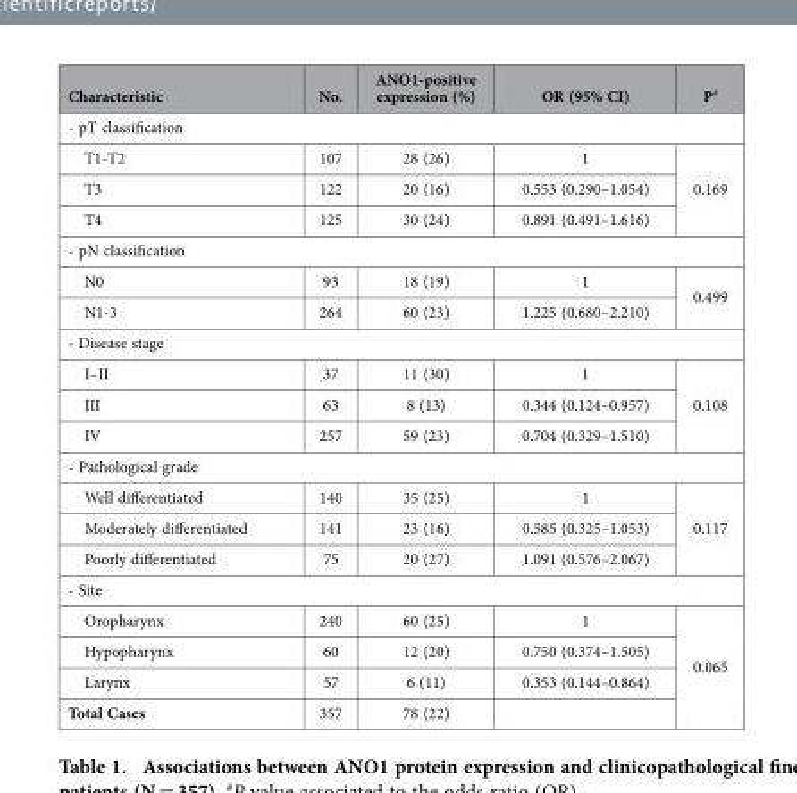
<table><thead><tr><td>Characteristic</td><td>No.</td><td>ANO1-positive expression (%)</td><td>OR (95% CI)</td><td>P<sup>#</sup></td></tr></thead><tbody><tr><td colspan="5">- pT classification</td></tr><tr><td>T1-T2</td><td>107</td><td>28 (26)</td><td>1</td><td rowspan="3">0.169</td></tr><tr><td>T3</td><td>122</td><td>20 (16)</td><td>0.553 (0.290–1.054)</td></tr><tr><td>T4</td><td>125</td><td>30 (24)</td><td>0.891 (0.491–1.616)</td></tr><tr><td colspan="5">- pN classification</td></tr><tr><td>N0</td><td>93</td><td>18 (19)</td><td>1</td><td rowspan="2">0.499</td></tr><tr><td>N1-3</td><td>264</td><td>60 (23)</td><td>1.225 (0.680–2.210)</td></tr><tr><td colspan="5">- Disease stage</td></tr><tr><td>I–II</td><td>37</td><td>11 (30)</td><td>1</td><td rowspan="3">0.108</td></tr><tr><td>III</td><td>63</td><td>8 (13)</td><td>0.344 (0.124–0.957)</td></tr><tr><td>IV</td><td>257</td><td>59 (23)</td><td>0.704 (0.329–1.510)</td></tr><tr><td colspan="5">- Pathological grade</td></tr><tr><td>Well differentiated</td><td>140</td><td>35 (25)</td><td>1</td><td rowspan="3">0.117</td></tr><tr><td>Moderately differentiated</td><td>141</td><td>23 (16)</td><td>0.585 (0.325–1.053)</td></tr><tr><td>Poorly differentiated</td><td>75</td><td>20 (27)</td><td>1.091 (0.576–2.067)</td></tr><tr><td colspan="5">- Site</td></tr><tr><td>Oropharynx</td><td>240</td><td>60 (25)</td><td>1</td><td rowspan="4">0.065</td></tr><tr><td>Hypopharynx</td><td>60</td><td>12 (20)</td><td>0.750 (0.374–1.505)</td></tr><tr><td>Larynx</td><td>57</td><td>6 (11)</td><td>0.353 (0.144–0.864)</td></tr><tr><td>Total Cases</td><td>357</td><td>78 (22)</td><td></td></tr></tbody></table>